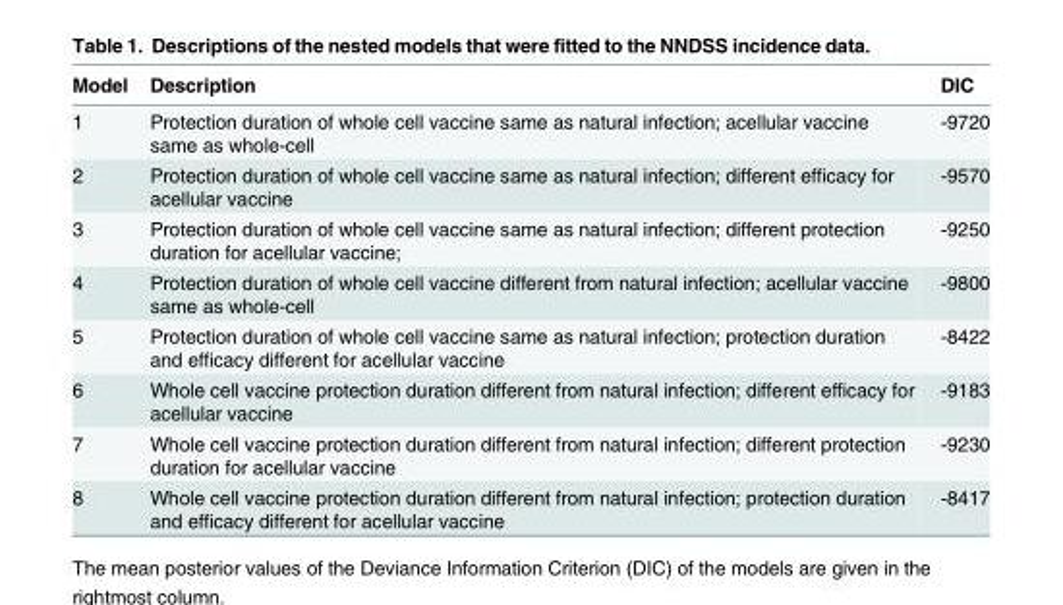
<table><thead><tr><td>Model</td><td>Description</td><td>DIC</td></tr></thead><tbody><tr><td>1</td><td>Protection duration of whole cell vaccine same as natural infection; acellular vaccine same as whole-cell</td><td>-9720</td></tr><tr><td>2</td><td>Protection duration of whole cell vaccine same as natural infection; different efficacy for acellular vaccine</td><td>-9570</td></tr><tr><td>3</td><td>Protection duration of whole cell vaccine same as natural infection; different protection duration for acellular vaccine;</td><td>-9250</td></tr><tr><td>4</td><td>Protection duration of whole cell vaccine different from natural infection; acellular vaccine same as whole-cell</td><td>-9800</td></tr><tr><td>5</td><td>Protection duration of whole cell vaccine same as natural infection; protection duration and efficacy different for acellular vaccine</td><td>-8422</td></tr><tr><td>6</td><td>Whole cell vaccine protection duration different from natural infection; different efficacy for acellular vaccine</td><td>-9183</td></tr><tr><td>7</td><td>Whole cell vaccine protection duration different from natural infection; different protection duration for acellular vaccine</td><td>-9230</td></tr><tr><td>8</td><td>Whole cell vaccine protection duration different from natural infection; protection duration and efficacy different for acellular vaccine</td><td>-8417</td></tr></tbody></table>